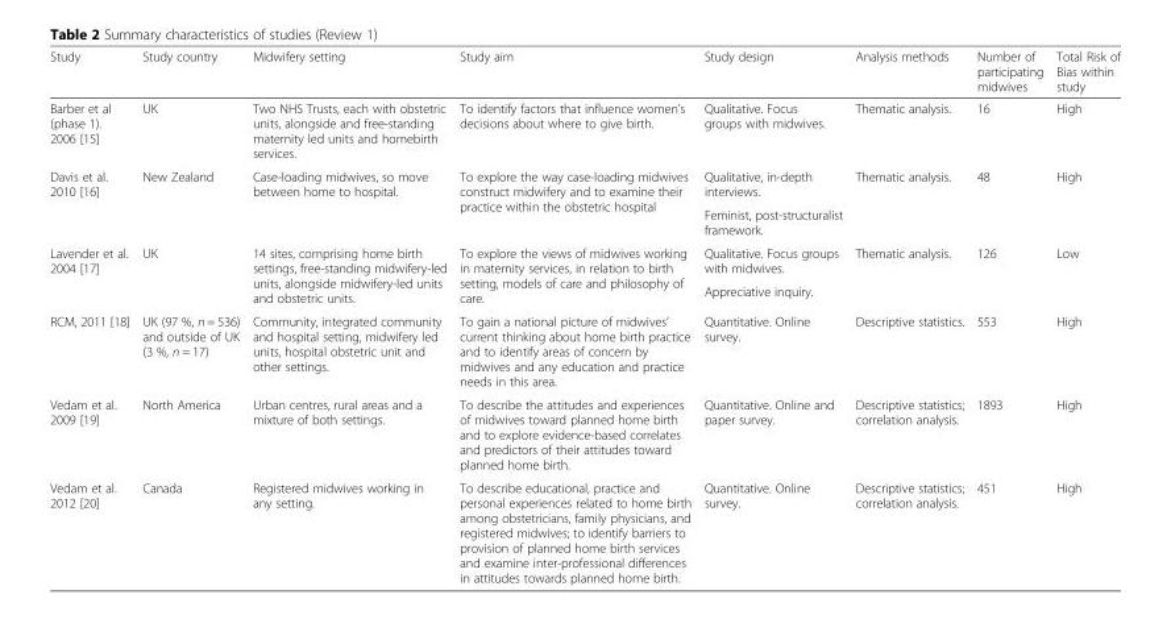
<table><thead><tr><td>Study</td><td>Study country</td><td>Midwifery setting</td><td>Study aim</td><td>Study design</td><td>Analysis methods</td><td>Number of participating midwives</td><td>Total Risk of Bias within study</td></tr></thead><tbody><tr><td>Barber et al (phase 1). 2006 [15]</td><td>UK</td><td>Two NHS Trusts, each with obstetric units, alongside and free-standing maternity led units and homebirth services.</td><td>To identify factors that influence women’s decisions about where to give birth.</td><td>Qualitative. Focus groups with midwives.</td><td>Thematic analysis.</td><td>16</td><td>High</td></tr><tr><td rowspan="2">Davis et al. 2010 [16]</td><td rowspan="2">New Zealand</td><td rowspan="2">Case-loading midwives, so move between home to hospital.</td><td rowspan="2">To explore the way case-loading midwives construct midwifery and to examine their practice within the obstetric hospital</td><td>Qualitative, in-depth interviews.</td><td rowspan="2">Thematic analysis.</td><td rowspan="2">48</td><td rowspan="2">High</td></tr><tr><td>Feminist, post-structuralist framework.</td></tr><tr><td rowspan="2">Lavender et al. 2004 [17]</td><td rowspan="2">UK</td><td rowspan="2">14 sites, comprising home birth settings, free-standing midwifery-led units, alongside midwifery-led units and obstetric units.</td><td rowspan="2">To explore the views of midwives working in maternity services, in relation to birth setting, models of care and philosophy of care.</td><td>Qualitative. Focus groups with midwives.</td><td rowspan="2">Thematic analysis.</td><td rowspan="2">126</td><td rowspan="2">Low</td></tr><tr><td>Appreciative inquiry.</td></tr><tr><td>RCM, 2011 [18]</td><td>UK (97 %, n = 536) and outside of UK (3 %, n = 17)</td><td>Community, integrated community and hospital setting, midwifery led units, hospital obstetric unit and other settings.</td><td>To gain a national picture of midwives’ current thinking about home birth practice and to identify areas of concern by midwives and any education and practice needs in this area.</td><td>Quantitative. Online survey.</td><td>Descriptive statistics.</td><td>553</td><td>High</td></tr><tr><td>Vedam et al. 2009 [19]</td><td>North America</td><td>Urban centres, rural areas and a mixture of both settings.</td><td>To describe the attitudes and experiences of midwives toward planned home birth and to explore evidence-based correlates and predictors of their attitudes toward planned home birth.</td><td>Quantitative. Online and paper survey.</td><td>Descriptive statistics; correlation analysis.</td><td>1893</td><td>High</td></tr><tr><td>Vedam et al. 2012 [20]</td><td>Canada</td><td>Registered midwives working in any setting.</td><td>To describe educational, practice and personal experiences related to home birth among obstetricians, family physicians, and registered midwives; to identify barriers to provision of planned home birth services and examine inter-professional differences in attitudes towards planned home birth.</td><td>Quantitative. Online survey.</td><td>Descriptive statistics; correlation analysis.</td><td>451</td><td>High</td></tr></tbody></table>